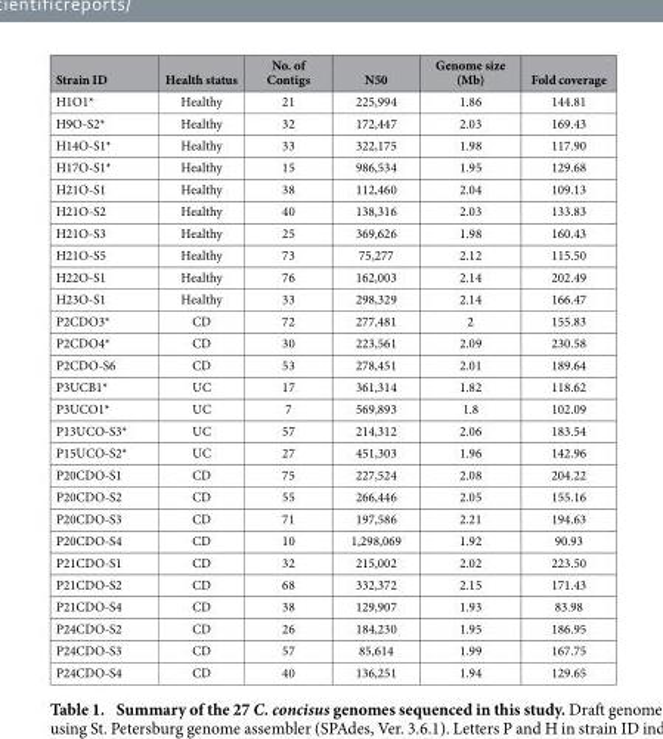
<table><thead><tr><td>Strain ID</td><td>Health status</td><td>No. of Contigs</td><td>N50</td><td>Genome size (Mb)</td><td>Fold coverage</td></tr></thead><tbody><tr><td>H1O1*</td><td>Healthy</td><td>21</td><td>225,994</td><td>1.86</td><td>144.81</td></tr><tr><td>H9O-S2*</td><td>Healthy</td><td>32</td><td>172,447</td><td>2.03</td><td>169.43</td></tr><tr><td>H14O-S1*</td><td>Healthy</td><td>33</td><td>322,175</td><td>1.98</td><td>117.90</td></tr><tr><td>H17O-S1*</td><td>Healthy</td><td>15</td><td>986,534</td><td>1.95</td><td>129.68</td></tr><tr><td>H21O-S1</td><td>Healthy</td><td>38</td><td>112,460</td><td>2.04</td><td>109.13</td></tr><tr><td>H21O-S2</td><td>Healthy</td><td>40</td><td>138,316</td><td>2.03</td><td>133.83</td></tr><tr><td>H21O-S3</td><td>Healthy</td><td>25</td><td>369,626</td><td>1.98</td><td>160.43</td></tr><tr><td>H21O-S5</td><td>Healthy</td><td>73</td><td>75,277</td><td>2.12</td><td>115.50</td></tr><tr><td>H22O-S1</td><td>Healthy</td><td>76</td><td>162,003</td><td>2.14</td><td>202.49</td></tr><tr><td>H23O-S1</td><td>Healthy</td><td>33</td><td>298,329</td><td>2.14</td><td>166.47</td></tr><tr><td>P2CDO3*</td><td>CD</td><td>72</td><td>277,481</td><td>2</td><td>155.83</td></tr><tr><td>P2CDO4*</td><td>CD</td><td>30</td><td>223,561</td><td>2.09</td><td>230.58</td></tr><tr><td>P2CDO-S6</td><td>CD</td><td>53</td><td>278,451</td><td>2.01</td><td>189.64</td></tr><tr><td>P3UCB1*</td><td>UC</td><td>17</td><td>361,314</td><td>1.82</td><td>118.62</td></tr><tr><td>P3UCO1*</td><td>UC</td><td>7</td><td>569,893</td><td>1.8</td><td>102.09</td></tr><tr><td>P13UCO-S3*</td><td>UC</td><td>57</td><td>214,312</td><td>2.06</td><td>183.54</td></tr><tr><td>P15UCO-S2*</td><td>UC</td><td>27</td><td>451,303</td><td>1.96</td><td>142.96</td></tr><tr><td>P20CDO-S1</td><td>CD</td><td>75</td><td>227,524</td><td>2.08</td><td>204.22</td></tr><tr><td>P20CDO-S2</td><td>CD</td><td>55</td><td>266,446</td><td>2.05</td><td>155.16</td></tr><tr><td>P20CDO-S3</td><td>CD</td><td>71</td><td>197,586</td><td>2.21</td><td>194.63</td></tr><tr><td>P20CDO-S4</td><td>CD</td><td>10</td><td>1,298,069</td><td>1.92</td><td>90.93</td></tr><tr><td>P21CDO-S1</td><td>CD</td><td>32</td><td>215,002</td><td>2.02</td><td>223.50</td></tr><tr><td>P21CDO-S2</td><td>CD</td><td>68</td><td>332,372</td><td>2.15</td><td>171.43</td></tr><tr><td>P21CDO-S4</td><td>CD</td><td>38</td><td>129,907</td><td>1.93</td><td>83.98</td></tr><tr><td>P24CDO-S2</td><td>CD</td><td>26</td><td>184,230</td><td>1.95</td><td>186.95</td></tr><tr><td>P24CDO-S3</td><td>CD</td><td>57</td><td>85,614</td><td>1.99</td><td>167.75</td></tr><tr><td>P24CDO-S4</td><td>CD</td><td>40</td><td>136,251</td><td>1.94</td><td>129.65</td></tr></tbody></table>